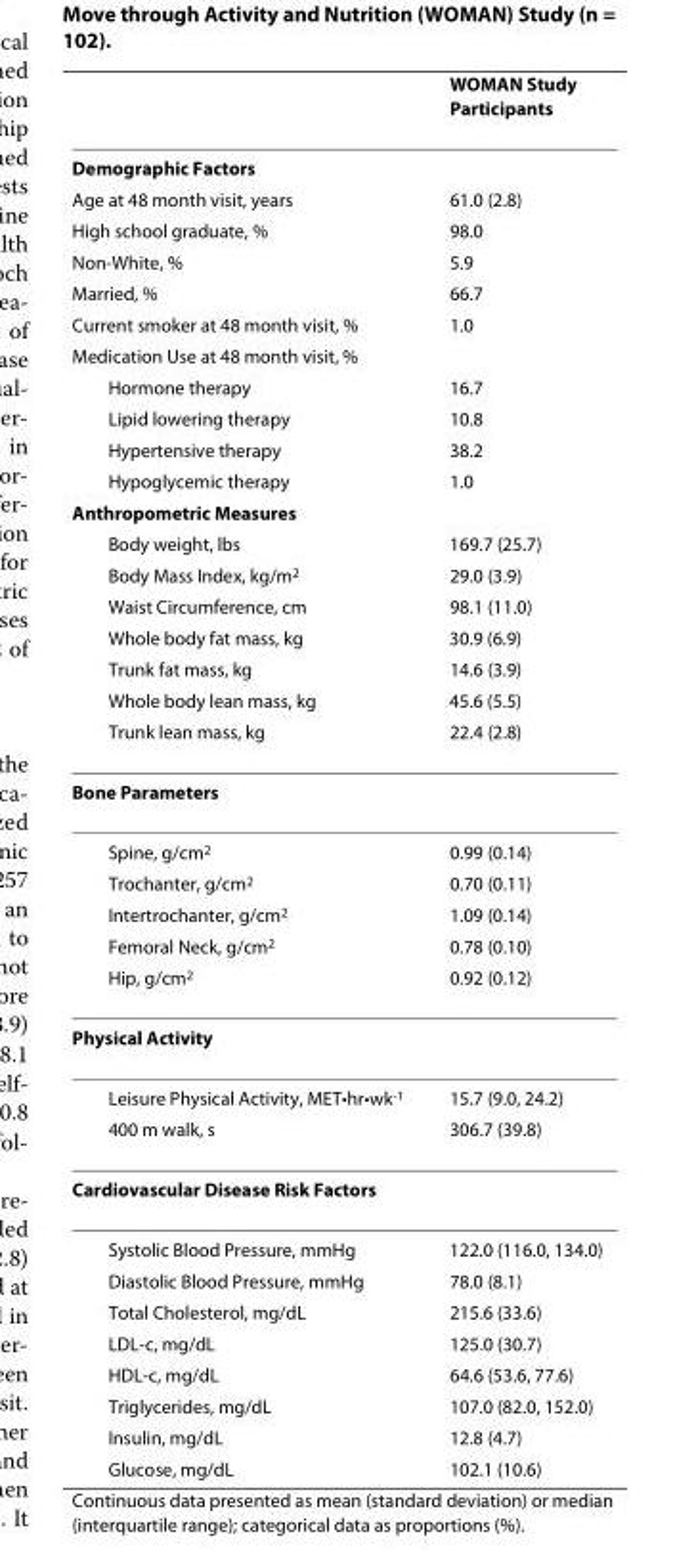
<table><thead><tr><td></td><td>WOMAN Study Participants</td></tr></thead><tbody><tr><td colspan="2">Demographic Factors</td></tr><tr><td>Age at 48 month visit, years</td><td>61.0 (2.8)</td></tr><tr><td>High school graduate, %</td><td>98.0</td></tr><tr><td>Non-White, %</td><td>5.9</td></tr><tr><td>Married, %</td><td>66.7</td></tr><tr><td>Current smoker at 48 month visit, %</td><td>1.0</td></tr><tr><td colspan="2">Medication Use at 48 month visit, %</td></tr><tr><td>Hormone therapy</td><td>16.7</td></tr><tr><td>Lipid lowering therapy</td><td>10.8</td></tr><tr><td>Hypertensive therapy</td><td>38.2</td></tr><tr><td>Hypoglycemic therapy</td><td>1.0</td></tr><tr><td colspan="2">Anthropometric Measures</td></tr><tr><td>Body weight, lbs</td><td>169.7 (25.7)</td></tr><tr><td>Body Mass Index, kg/m<sup>2</sup></td><td>29.0 (3.9)</td></tr><tr><td>Waist Circumference, cm</td><td>98.1 (11.0)</td></tr><tr><td>Whole body fat mass, kg</td><td>30.9 (6.9)</td></tr><tr><td>Trunk fat mass, kg</td><td>14.6 (3.9)</td></tr><tr><td>Whole body lean mass, kg</td><td>45.6 (5.5)</td></tr><tr><td>Trunk lean mass, kg</td><td>22.4 (2.8)</td></tr><tr><td colspan="2">Bone Parameters</td></tr><tr><td>Spine, g/cm<sup>2</sup></td><td>0.99 (0.14)</td></tr><tr><td>Trochanter, g/cm<sup>2</sup></td><td>0.70 (0.11)</td></tr><tr><td>Intertrochanter, g/cm<sup>2</sup></td><td>1.09 (0.14)</td></tr><tr><td>Femoral Neck, g/cm<sup>2</sup></td><td>0.78 (0.10)</td></tr><tr><td>Hip, g/cm<sup>2</sup></td><td>0.92 (0.12)</td></tr><tr><td colspan="2">Physical Activity</td></tr><tr><td>Leisure Physical Activity, MET•hr•wk-1</td><td>15.7 (9.0, 24.2)</td></tr><tr><td>400 m walk, s</td><td>306.7 (39.8)</td></tr><tr><td colspan="2">Cardiovascular Disease Risk Factors</td></tr><tr><td>Systolic Blood Pressure, mmHg</td><td>122.0 (116.0, 134.0)</td></tr><tr><td>Diastolic Blood Pressure, mmHg</td><td>78.0 (8.1)</td></tr><tr><td>Total Cholesterol, mg/dL</td><td>215.6 (33.6)</td></tr><tr><td>LDL-c, mg/dL</td><td>125.0 (30.7)</td></tr><tr><td>HDL-c, mg/dL</td><td>64.6 (53.6, 77.6)</td></tr><tr><td>Triglycerides, mg/dL</td><td>107.0 (82.0, 152.0)</td></tr><tr><td>Insulin, mg/dL</td><td>12.8 (4.7)</td></tr><tr><td>Glucose, mg/dL</td><td>102.1 (10.6)</td></tr></tbody></table>